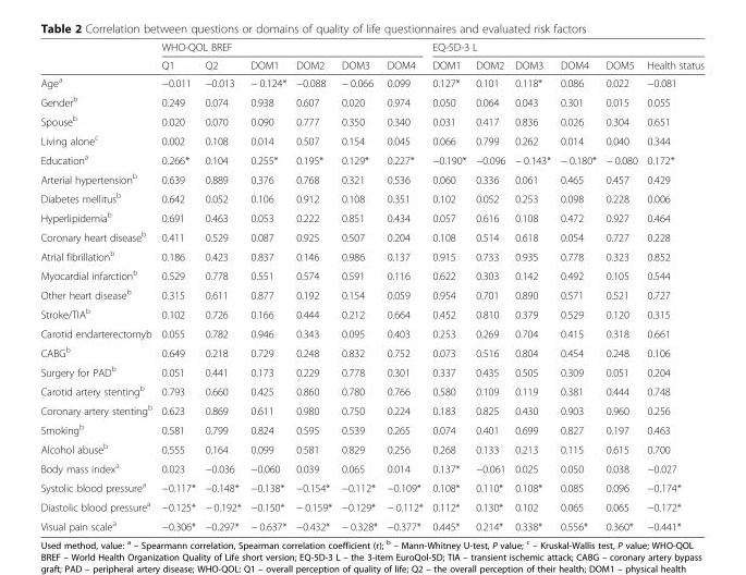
<table><thead><tr><td rowspan="2"></td><td colspan="6">WHO-QOL BREF</td><td colspan="6">EQ-5D-3 L</td></tr><tr><td>Q1</td><td>Q2</td><td>DOM1</td><td>DOM2</td><td>DOM3</td><td>DOM4</td><td>DOM1</td><td>DOM2</td><td>DOM3</td><td>DOM4</td><td>DOM5</td><td>Health status</td></tr></thead><tbody><tr><td>Age<sup>a</sup></td><td>−0.011</td><td>−0.013</td><td>− 0.124*</td><td>−0.088</td><td>− 0.066</td><td>0.099</td><td>0.127*</td><td>0.101</td><td>0.118*</td><td>0.086</td><td>0.022</td><td>−0.081</td></tr><tr><td>Gender<sup>b</sup></td><td>0.249</td><td>0.074</td><td>0.938</td><td>0.607</td><td>0.020</td><td>0.974</td><td>0.050</td><td>0.064</td><td>0.043</td><td>0.301</td><td>0.015</td><td>0.055</td></tr><tr><td>Spouse<sup>b</sup></td><td>0.020</td><td>0.070</td><td>0.090</td><td>0.777</td><td>0.350</td><td>0.340</td><td>0.031</td><td>0.417</td><td>0.836</td><td>0.026</td><td>0.304</td><td>0.651</td></tr><tr><td>Living alone<sup>c</sup></td><td>0.002</td><td>0.108</td><td>0.014</td><td>0.507</td><td>0.154</td><td>0.045</td><td>0.066</td><td>0.799</td><td>0.262</td><td>0.014</td><td>0.040</td><td>0.344</td></tr><tr><td>Education<sup>a</sup></td><td>0.266*</td><td>0.104</td><td>0.255*</td><td>0.195*</td><td>0.129*</td><td>0.227*</td><td>−0.190*</td><td>−0.096</td><td>− 0.143*</td><td>− 0.180*</td><td>− 0.080</td><td>0.172*</td></tr><tr><td>Arterial hypertension<sup>b</sup></td><td>0.639</td><td>0.889</td><td>0.376</td><td>0.768</td><td>0.321</td><td>0.536</td><td>0.060</td><td>0.336</td><td>0.061</td><td>0.465</td><td>0.457</td><td>0.429</td></tr><tr><td>Diabetes mellitus<sup>b</sup></td><td>0.642</td><td>0.052</td><td>0.106</td><td>0.912</td><td>0.108</td><td>0.351</td><td>0.102</td><td>0.052</td><td>0.253</td><td>0.098</td><td>0.228</td><td>0.006</td></tr><tr><td>Hyperlipidemia<sup>b</sup></td><td>0.691</td><td>0.463</td><td>0.053</td><td>0.222</td><td>0.851</td><td>0.434</td><td>0.057</td><td>0.616</td><td>0.108</td><td>0.472</td><td>0.927</td><td>0.464</td></tr><tr><td>Coronary heart disease<sup>b</sup></td><td>0.411</td><td>0.529</td><td>0.087</td><td>0.925</td><td>0.507</td><td>0.204</td><td>0.108</td><td>0.514</td><td>0.618</td><td>0.054</td><td>0.727</td><td>0.228</td></tr><tr><td>Atrial fibrillation<sup>b</sup></td><td>0.186</td><td>0.423</td><td>0.837</td><td>0.146</td><td>0.986</td><td>0.137</td><td>0.915</td><td>0.733</td><td>0.935</td><td>0.778</td><td>0.323</td><td>0.852</td></tr><tr><td>Myocardial infarction<sup>b</sup></td><td>0.529</td><td>0.778</td><td>0.551</td><td>0.574</td><td>0.591</td><td>0.116</td><td>0.622</td><td>0.303</td><td>0.142</td><td>0.492</td><td>0.105</td><td>0.544</td></tr><tr><td>Other heart disease<sup>b</sup></td><td>0.315</td><td>0.611</td><td>0.877</td><td>0.192</td><td>0.154</td><td>0.059</td><td>0.954</td><td>0.701</td><td>0.890</td><td>0.571</td><td>0.521</td><td>0.727</td></tr><tr><td>Stroke/TIA<sup>b</sup></td><td>0.102</td><td>0.726</td><td>0.166</td><td>0.444</td><td>0.212</td><td>0.664</td><td>0.452</td><td>0.810</td><td>0.379</td><td>0.529</td><td>0.120</td><td>0.315</td></tr><tr><td>Carotid endarterectomyb</td><td>0.055</td><td>0.782</td><td>0.946</td><td>0.343</td><td>0.095</td><td>0.403</td><td>0.253</td><td>0.269</td><td>0.704</td><td>0.415</td><td>0.318</td><td>0.661</td></tr><tr><td>CABG<sup>b</sup></td><td>0.649</td><td>0.218</td><td>0.729</td><td>0.248</td><td>0.832</td><td>0.752</td><td>0.073</td><td>0.516</td><td>0.804</td><td>0.454</td><td>0.248</td><td>0.106</td></tr><tr><td>Surgery for PAD<sup>b</sup></td><td>0.051</td><td>0.441</td><td>0.173</td><td>0.229</td><td>0.778</td><td>0.301</td><td>0.337</td><td>0.435</td><td>0.505</td><td>0.309</td><td>0.051</td><td>0.204</td></tr><tr><td>Carotid artery stenting<sup>b</sup></td><td>0.793</td><td>0.660</td><td>0.425</td><td>0.860</td><td>0.780</td><td>0.766</td><td>0.580</td><td>0.109</td><td>0.119</td><td>0.381</td><td>0.444</td><td>0.748</td></tr><tr><td>Coronary artery stenting<sup>b</sup></td><td>0.623</td><td>0.869</td><td>0.611</td><td>0.980</td><td>0.750</td><td>0.224</td><td>0.183</td><td>0.825</td><td>0.430</td><td>0.903</td><td>0.960</td><td>0.256</td></tr><tr><td>Smoking<sup>b</sup></td><td>0.581</td><td>0.799</td><td>0.824</td><td>0.595</td><td>0.539</td><td>0.265</td><td>0.074</td><td>0.401</td><td>0.699</td><td>0.827</td><td>0.197</td><td>0.463</td></tr><tr><td>Alcohol abuse<sup>b</sup></td><td>0.555</td><td>0.164</td><td>0.099</td><td>0.581</td><td>0.829</td><td>0.256</td><td>0.268</td><td>0.133</td><td>0.213</td><td>0.115</td><td>0.615</td><td>0.700</td></tr><tr><td>Body mass index<sup>a</sup></td><td>0.023</td><td>−0.036</td><td>−0.060</td><td>0.039</td><td>0.065</td><td>0.014</td><td>0.137*</td><td>−0.061</td><td>0.025</td><td>0.050</td><td>0.038</td><td>−0.027</td></tr><tr><td>Systolic blood pressure<sup>a</sup></td><td>−0.117*</td><td>−0.148*</td><td>−0.138*</td><td>−0.154*</td><td>−0.112*</td><td>−0.109*</td><td>0.108*</td><td>0.110*</td><td>0.108*</td><td>0.085</td><td>0.096</td><td>−0.174*</td></tr><tr><td>Diastolic blood pressure<sup>a</sup></td><td>−0.125*</td><td>− 0.192*</td><td>−0.150*</td><td>− 0.159*</td><td>−0.129*</td><td>− 0.112*</td><td>0.112*</td><td>0.130*</td><td>0.102</td><td>0.065</td><td>0.065</td><td>−0.172*</td></tr><tr><td>Visual pain scale<sup>a</sup></td><td>−0.306*</td><td>−0.297*</td><td>− 0.637*</td><td>−0.432*</td><td>− 0.328*</td><td>−0.377*</td><td>0.445*</td><td>0.214*</td><td>0.338*</td><td>0.556*</td><td>0.360*</td><td>−0.441*</td></tr></tbody></table>